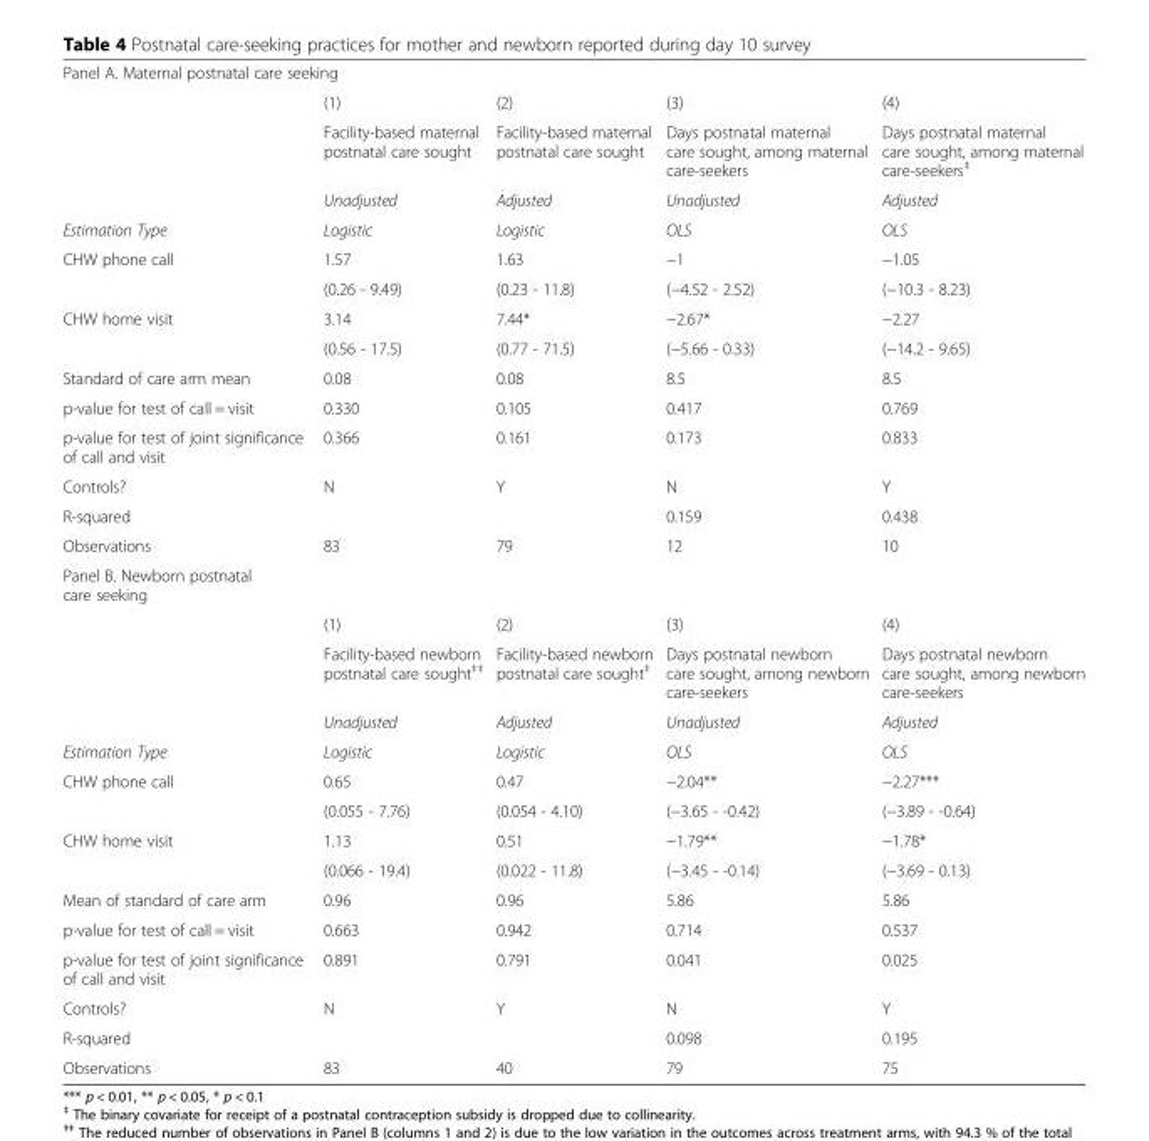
<table><tbody><tr><td colspan="5">Panel A. Maternal postnatal care seeking</td></tr><tr><td></td><td>(1)</td><td>(2)</td><td>(3)</td><td>(4)</td></tr><tr><td></td><td>Facility-based maternal postnatal care sought</td><td>Facility-based maternal postnatal care sought</td><td>Days postnatal maternal care sought, among maternal care-seekers</td><td>Days postnatal maternal care sought, among maternal care-seekers<sup>‡</sup></td></tr><tr><td></td><td>Unadjusted</td><td>Adjusted</td><td>Unadjusted</td><td>Adjusted</td></tr><tr><td>Estimation Type</td><td>Logistic</td><td>Logistic</td><td>OLS</td><td>OLS</td></tr><tr><td rowspan="2">CHW phone call</td><td>1.57</td><td>1.63</td><td>−1</td><td>−1.05</td></tr><tr><td>(0.26 - 9.49)</td><td>(0.23 - 11.8)</td><td>(−4.52 - 2.52)</td><td>(−10.3 - 8.23)</td></tr><tr><td rowspan="2">CHW home visit</td><td>3.14</td><td>7.44*</td><td>−2.67*</td><td>−2.27</td></tr><tr><td>(0.56 - 17.5)</td><td>(0.77 - 71.5)</td><td>(−5.66 - 0.33)</td><td>(−14.2 - 9.65)</td></tr><tr><td>Standard of care arm mean</td><td>0.08</td><td>0.08</td><td>8.5</td><td>8.5</td></tr><tr><td>p-value for test of call = visit</td><td>0.330</td><td>0.105</td><td>0.417</td><td>0.769</td></tr><tr><td>p-value for test of joint significance of call and visit</td><td>0.366</td><td>0.161</td><td>0.173</td><td>0.833</td></tr><tr><td>Controls?</td><td>N</td><td>Y</td><td>N</td><td>Y</td></tr><tr><td>R-squared</td><td></td><td></td><td>0.159</td><td>0.438</td></tr><tr><td>Observations</td><td>83</td><td>79</td><td>12</td><td>10</td></tr><tr><td colspan="5">Panel B. Newborn postnatal care seeking</td></tr><tr><td></td><td>(1)</td><td>(2)</td><td>(3)</td><td>(4)</td></tr><tr><td></td><td>Facility-based newborn postnatal care sought<sup>‡‡</sup></td><td>Facility-based newborn postnatal care sought<sup>‡</sup></td><td>Days postnatal newborn care sought, among newborn care-seekers</td><td>Days postnatal newborn care sought, among newborn care-seekers</td></tr><tr><td></td><td>Unadjusted</td><td>Adjusted</td><td>Unadjusted</td><td>Adjusted</td></tr><tr><td>Estimation Type</td><td>Logistic</td><td>Logistic</td><td>OLS</td><td>OLS</td></tr><tr><td rowspan="2">CHW phone call</td><td>0.65</td><td>0.47</td><td>−2.04**</td><td>−2.27***</td></tr><tr><td>(0.055 - 7.76)</td><td>(0.054 - 4.10)</td><td>(−3.65 - -0.42)</td><td>(−3.89 - -0.64)</td></tr><tr><td rowspan="2">CHW home visit</td><td>1.13</td><td>0.51</td><td>−1.79**</td><td>−1.78*</td></tr><tr><td>(0.066 - 19.4)</td><td>(0.022 - 11.8)</td><td>(−3.45 - -0.14)</td><td>(−3.69 - 0.13)</td></tr><tr><td>Mean of standard of care arm</td><td>0.96</td><td>0.96</td><td>5.86</td><td>5.86</td></tr><tr><td>p-value for test of call = visit</td><td>0.663</td><td>0.942</td><td>0.714</td><td>0.537</td></tr><tr><td>p-value for test of joint significance of call and visit</td><td>0.891</td><td>0.791</td><td>0.041</td><td>0.025</td></tr><tr><td>Controls?</td><td>N</td><td>Y</td><td>N</td><td>Y</td></tr><tr><td>R-squared</td><td></td><td></td><td>0.098</td><td>0.195</td></tr><tr><td>Observations</td><td>83</td><td>40</td><td>79</td><td>75</td></tr></tbody></table>